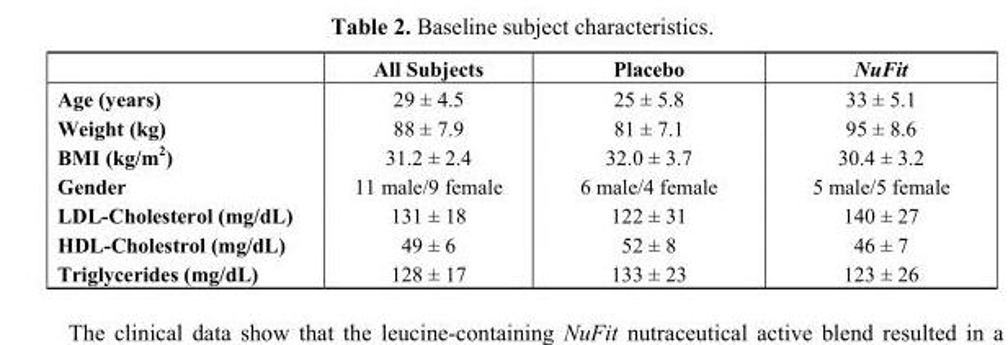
<table><thead><tr><td></td><td>All Subjects</td><td>Placebo</td><td>NuFit</td></tr></thead><tbody><tr><td>Age (years)</td><td>29 ± 4.5</td><td>25 ± 5.8</td><td>33 ± 5.1</td></tr><tr><td>Weight (kg)</td><td>88 ± 7.9</td><td>81 ± 7.1</td><td>95 ± 8.6</td></tr><tr><td>BMI (kg/m<sup>2</sup>)</td><td>31.2 ± 2.4</td><td>32.0 ± 3.7</td><td>30.4 ± 3.2</td></tr><tr><td>Gender</td><td>11 male/9 female</td><td>6 male/4 female</td><td>5 male/5 female</td></tr><tr><td>LDL-Cholesterol (mg/dL)</td><td>131 ± 18</td><td>122 ± 31</td><td>140 ± 27</td></tr><tr><td>HDL-Cholestrol (mg/dL)</td><td>49 ± 6</td><td>52 ± 8</td><td>46 ± 7</td></tr><tr><td>Triglycerides (mg/dL)</td><td>128 ± 17</td><td>133 ± 23</td><td>123 ± 26</td></tr></tbody></table>